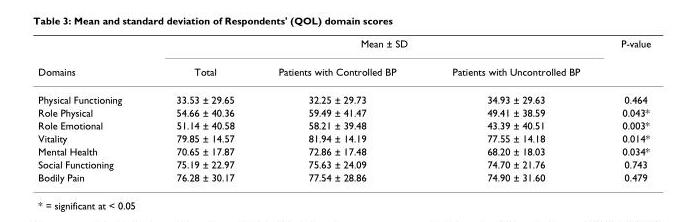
<table><thead><tr><td rowspan="2">Domains</td><td colspan="3">Mean ± SD</td><td rowspan="2">P-value</td></tr><tr><td>Total</td><td>Patients with Controlled BP</td><td>Patients with Uncontrolled BP</td></tr></thead><tbody><tr><td>Physical Functioning</td><td>33.53 ± 29.65</td><td>32.25 ± 29.73</td><td>34.93 ± 29.63</td><td>0.464</td></tr><tr><td>Role Physical</td><td>54.66 ± 40.36</td><td>59.49 ± 41.47</td><td>49.41 ± 38.59</td><td>0.043*</td></tr><tr><td>Role Emotional</td><td>51.14 ± 40.58</td><td>58.21 ± 39.48</td><td>43.39 ± 40.51</td><td>0.003*</td></tr><tr><td>Vitality</td><td>79.85 ± 14.57</td><td>81.94 ± 14.19</td><td>77.55 ± 14.18</td><td>0.014*</td></tr><tr><td>Mental Health</td><td>70.65 ± 17.87</td><td>72.86 ± 17.48</td><td>68.20 ± 18.03</td><td>0.034*</td></tr><tr><td>Social Functioning</td><td>75.19 ± 22.97</td><td>75.63 ± 24.09</td><td>74.70 ± 21.76</td><td>0.743</td></tr><tr><td>Bodily Pain</td><td>76.28 ± 30.17</td><td>77.54 ± 28.86</td><td>74.90 ± 31.60</td><td>0.479</td></tr></tbody></table>